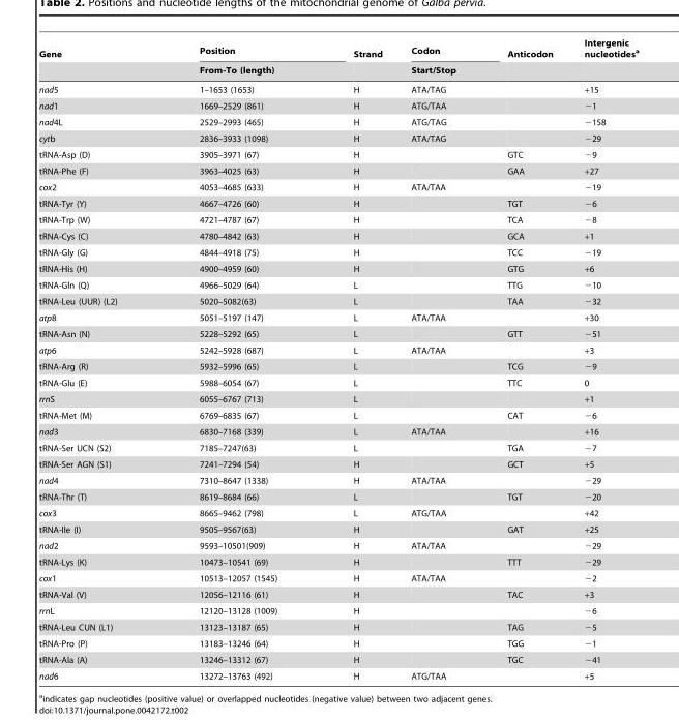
<table><thead><tr><td rowspan="2">Gene</td><td rowspan="2">Position From-To (length)</td><td rowspan="2">Strand</td><td rowspan="2">Codon Start/Stop</td><td rowspan="2">Anticodon</td><td rowspan="2">Intergenic nucleotides<sup>a</sup></td></tr><tr></tr></thead><tbody><tr><td>nad5</td><td>1–1653 (1653)</td><td>H</td><td>ATA/TAG</td><td></td><td>+15</td></tr><tr><td>nad1</td><td>1669–2529 (861)</td><td>H</td><td>ATG/TAA</td><td></td><td>−1</td></tr><tr><td>nad4L</td><td>2529–2993 (465)</td><td>H</td><td>ATG/TAG</td><td></td><td>−158</td></tr><tr><td>cytb</td><td>2836–3933 (1098)</td><td>H</td><td>ATA/TAG</td><td></td><td>−29</td></tr><tr><td>tRNA-Asp (D)</td><td>3905–3971 (67)</td><td>H</td><td></td><td>GTC</td><td>−9</td></tr><tr><td>tRNA-Phe (F)</td><td>3963–4025 (63)</td><td>H</td><td></td><td>GAA</td><td>+27</td></tr><tr><td>cox2</td><td>4053–4685 (633)</td><td>H</td><td>ATA/TAA</td><td></td><td>−19</td></tr><tr><td>tRNA-Tyr (Y)</td><td>4667–4726 (60)</td><td>H</td><td></td><td>TGT</td><td>−6</td></tr><tr><td>tRNA-Trp (W)</td><td>4721–4787 (67)</td><td>H</td><td></td><td>TCA</td><td>−8</td></tr><tr><td>tRNA-Cys (C)</td><td>4780–4842 (63)</td><td>H</td><td></td><td>GCA</td><td>+1</td></tr><tr><td>tRNA-Gly (G)</td><td>4844–4918 (75)</td><td>H</td><td></td><td>TCC</td><td>−19</td></tr><tr><td>tRNA-His (H)</td><td>4900–4959 (60)</td><td>H</td><td></td><td>GTG</td><td>+6</td></tr><tr><td>tRNA-Gln (Q)</td><td>4966–5029 (64)</td><td>L</td><td></td><td>TTG</td><td>−10</td></tr><tr><td>tRNA-Leu (UUR) (L2)</td><td>5020–5082(63)</td><td>L</td><td></td><td>TAA</td><td>−32</td></tr><tr><td>atp8</td><td>5051–5197 (147)</td><td>L</td><td>ATA/TAA</td><td></td><td>+30</td></tr><tr><td>tRNA-Asn (N)</td><td>5228–5292 (65)</td><td>L</td><td></td><td>GTT</td><td>−51</td></tr><tr><td>atp6</td><td>5242–5928 (687)</td><td>L</td><td>ATA/TAA</td><td></td><td>+3</td></tr><tr><td>tRNA-Arg (R)</td><td>5932–5996 (65)</td><td>L</td><td></td><td>TCG</td><td>−9</td></tr><tr><td>tRNA-Glu (E)</td><td>5988–6054 (67)</td><td>L</td><td></td><td>TTC</td><td>0</td></tr><tr><td>rrnS</td><td>6055–6767 (713)</td><td>L</td><td></td><td></td><td>+1</td></tr><tr><td>tRNA-Met (M)</td><td>6769–6835 (67)</td><td>L</td><td></td><td>CAT</td><td>−6</td></tr><tr><td>nad3</td><td>6830–7168 (339)</td><td>L</td><td>ATA/TAA</td><td></td><td>+16</td></tr><tr><td>tRNA-Ser UCN (S2)</td><td>7185–7247(63)</td><td>L</td><td></td><td>TGA</td><td>−7</td></tr><tr><td>tRNA-Ser AGN (S1)</td><td>7241–7294 (54)</td><td>H</td><td></td><td>GCT</td><td>+5</td></tr><tr><td>nad4</td><td>7310–8647 (1338)</td><td>H</td><td>ATA/TAA</td><td></td><td>−29</td></tr><tr><td>tRNA-Thr (T)</td><td>8619–8684 (66)</td><td>L</td><td></td><td>TGT</td><td>−20</td></tr><tr><td>cox3</td><td>8665–9462 (798)</td><td>L</td><td>ATG/TAA</td><td></td><td>+42</td></tr><tr><td>tRNA-Ile (I)</td><td>9505–9567(63)</td><td>H</td><td></td><td>GAT</td><td>+25</td></tr><tr><td>nad2</td><td>9593–10501(909)</td><td>H</td><td>ATA/TAA</td><td></td><td>−29</td></tr><tr><td>tRNA-Lys (K)</td><td>10473–10541 (69)</td><td>H</td><td></td><td>TTT</td><td>−29</td></tr><tr><td>cox1</td><td>10513–12057 (1545)</td><td>H</td><td>ATA/TAA</td><td></td><td>−2</td></tr><tr><td>tRNA-Val (V)</td><td>12056–12116 (61)</td><td>H</td><td></td><td>TAC</td><td>+3</td></tr><tr><td>rrnL</td><td>12120–13128 (1009)</td><td>H</td><td></td><td></td><td>−6</td></tr><tr><td>tRNA-Leu CUN (L1)</td><td>13123–13187 (65)</td><td>H</td><td></td><td>TAG</td><td>−5</td></tr><tr><td>tRNA-Pro (P)</td><td>13183–13246 (64)</td><td>H</td><td></td><td>TGG</td><td>−1</td></tr><tr><td>tRNA-Ala (A)</td><td>13246–13312 (67)</td><td>H</td><td></td><td>TGC</td><td>−41</td></tr><tr><td>nad6</td><td>13272–13763 (492)</td><td>H</td><td>ATG/TAA</td><td></td><td>+5</td></tr></tbody></table>